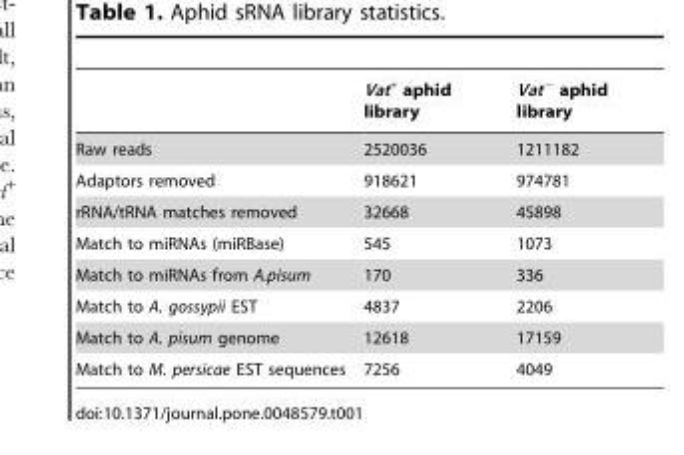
<table><thead><tr><td></td><td>Vat<sup>+</sup> aphid library</td><td>Vat<sup>−</sup> aphid library</td></tr></thead><tbody><tr><td>Raw reads</td><td>2520036</td><td>1211182</td></tr><tr><td>Adaptors removed</td><td>918621</td><td>974781</td></tr><tr><td>rRNA/tRNA matches removed</td><td>32668</td><td>45898</td></tr><tr><td>Match to miRNAs (miRBase)</td><td>545</td><td>1073</td></tr><tr><td>Match to miRNAs from A.pisum</td><td>170</td><td>336</td></tr><tr><td>Match to A. gossypii EST</td><td>4837</td><td>2206</td></tr><tr><td>Match to A. pisum genome</td><td>12618</td><td>17159</td></tr><tr><td>Match to M. persicae EST sequences</td><td>7256</td><td>4049</td></tr></tbody></table>